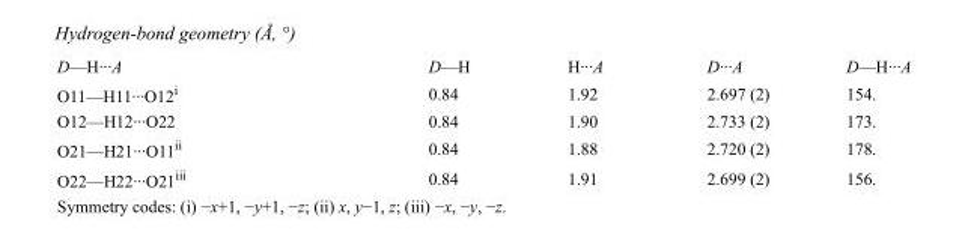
<table><tbody><tr><td>D—H···A</td><td>D—H</td><td>H···A</td><td>D···A</td><td>D—H···A</td></tr><tr><td>O11—H11···O12<sup>i</sup></td><td>0.84</td><td>1.92</td><td>2.697 (2)</td><td>154.</td></tr><tr><td>O12—H12···O22</td><td>0.84</td><td>1.90</td><td>2.733 (2)</td><td>173.</td></tr><tr><td>O21—H21···O11<sup>ii</sup></td><td>0.84</td><td>1.88</td><td>2.720 (2)</td><td>178.</td></tr><tr><td>O22—H22···O21<sup>iii</sup></td><td>0.84</td><td>1.91</td><td>2.699 (2)</td><td>156.</td></tr></tbody></table>